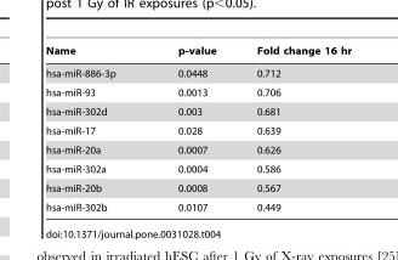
<table><thead><tr><td>Name</td><td>p-value</td><td>Fold change 16 hr</td></tr></thead><tbody><tr><td>hsa-miR-886-3p</td><td>0.0448</td><td>0.712</td></tr><tr><td>hsa-miR-93</td><td>0.0013</td><td>0.706</td></tr><tr><td>hsa-miR-302d</td><td>0.003</td><td>0.681</td></tr><tr><td>hsa-miR-17</td><td>0.028</td><td>0.639</td></tr><tr><td>hsa-miR-20a</td><td>0.0007</td><td>0.626</td></tr><tr><td>hsa-miR-302a</td><td>0.0004</td><td>0.586</td></tr><tr><td>hsa-miR-20b</td><td>0.0008</td><td>0.567</td></tr><tr><td>hsa-miR-302b</td><td>0.0107</td><td>0.449</td></tr></tbody></table>